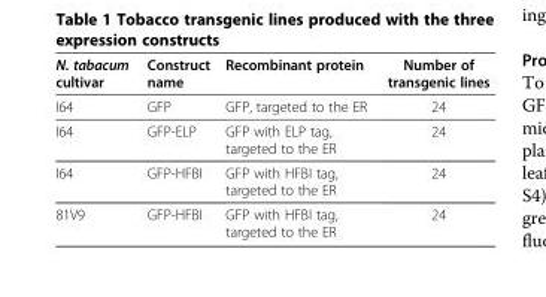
<table><thead><tr><td>N. tabacum cultivar</td><td>Construct name</td><td>Recombinant protein</td><td>Number of transgenic lines</td></tr></thead><tbody><tr><td>I64</td><td>GFP</td><td>GFP, targeted to the ER</td><td>24</td></tr><tr><td>I64</td><td>GFP-ELP</td><td>GFP with ELP tag, targeted to the ER</td><td>24</td></tr><tr><td>I64</td><td>GFP-HFBI</td><td>GFP with HFBI tag, targeted to the ER</td><td>24</td></tr><tr><td>81V9</td><td>GFP-HFBI</td><td>GFP with HFBI tag, targeted to the ER</td><td>24</td></tr></tbody></table>